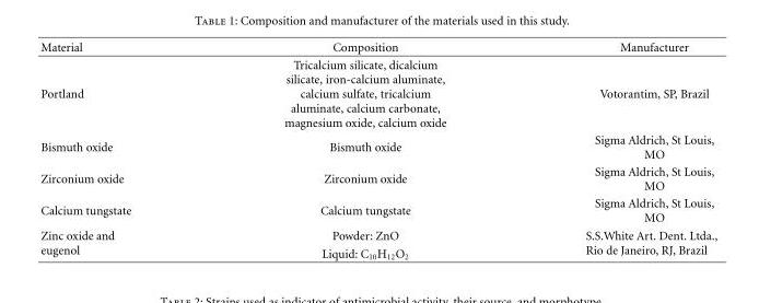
<table><thead><tr><td>Material</td><td>Composition</td><td>Manufacturer</td></tr></thead><tbody><tr><td>Portland</td><td>Tricalcium silicate, dicalcium silicate, iron-calcium aluminate, calcium sulfate, tricalcium aluminate, calcium carbonate, magnesium oxide, calcium oxide</td><td>Votorantim, SP, Brazil</td></tr><tr><td>Bismuth oxide</td><td>Bismuth oxide</td><td>Sigma Aldrich, St Louis, MO</td></tr><tr><td>Zirconium oxide</td><td>Zirconium oxide</td><td>Sigma Aldrich, St Louis, MO</td></tr><tr><td>Calcium tungstate</td><td>Calcium tungstate</td><td>Sigma Aldrich, St Louis, MO</td></tr><tr><td rowspan="2">Zinc oxide and eugenol</td><td>Powder: ZnO</td><td rowspan="2">S.S.White Art. Dent. Ltda., Rio de Janeiro, RJ, Brazil</td></tr><tr><td>Liquid: C<sub>10</sub>H<sub>12</sub>O<sub>2</sub></td></tr></tbody></table>